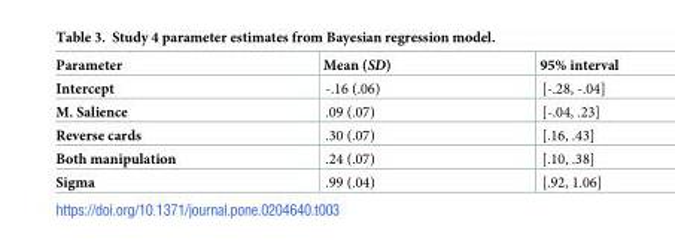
<table><thead><tr><td>Parameter</td><td>Mean (SD)</td><td>95% interval</td></tr></thead><tbody><tr><td>Intercept</td><td>-.16 (.06)</td><td>[-.28, -.04]</td></tr><tr><td>M. Salience</td><td>.09 (.07)</td><td>[-.04, .23]</td></tr><tr><td>Reverse cards</td><td>.30 (.07)</td><td>[.16, .43]</td></tr><tr><td>Both manipulation</td><td>.24 (.07)</td><td>[.10, .38]</td></tr><tr><td>Sigma</td><td>.99 (.04)</td><td>[.92, 1.06]</td></tr></tbody></table>